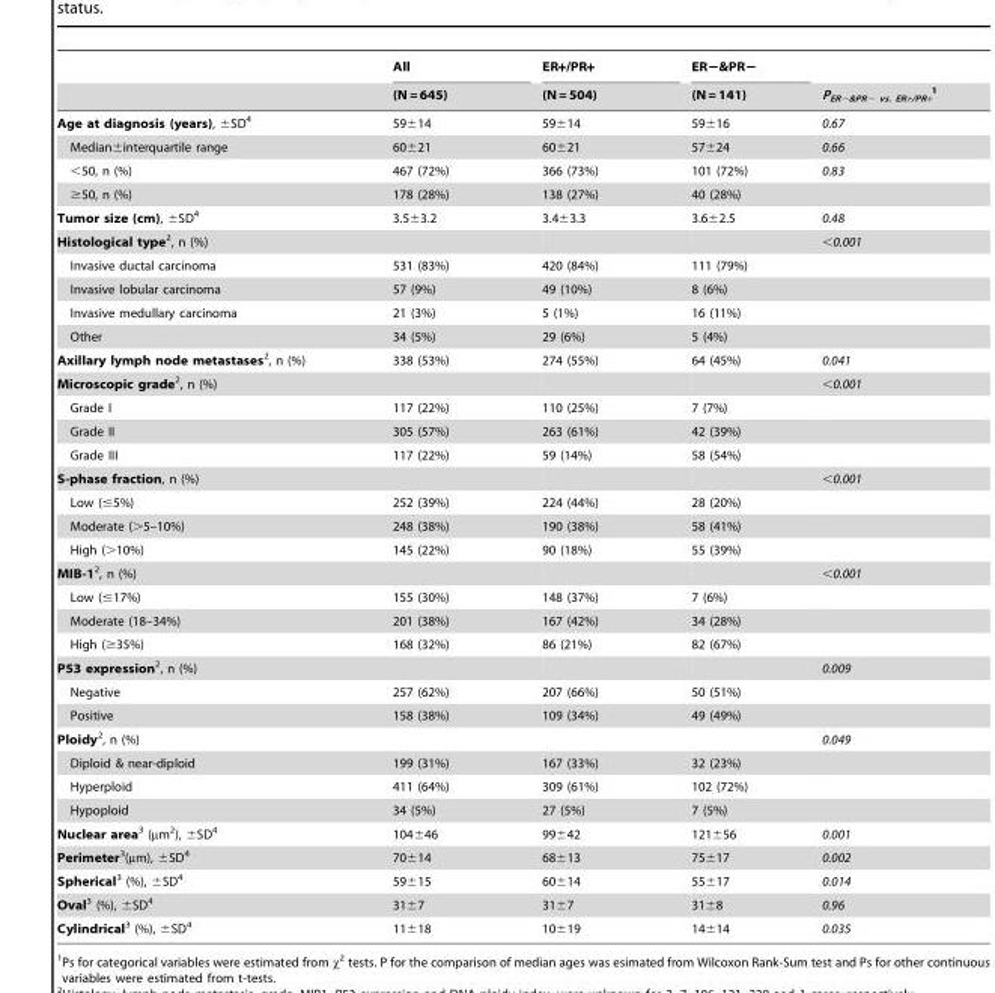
<table><thead><tr><td rowspan="2"></td><td rowspan="2">All (N = 645)</td><td rowspan="2">ER+/PR+ (N = 504)</td><td rowspan="2">ER−&amp;PR− (N = 141)</td><td rowspan="2">P<sub>ER−&amp;PR− vs. ER+/PR+</sub> 1</td></tr><tr></tr></thead><tbody><tr><td>Age at diagnosis (years), ±SD<sup>4</sup></td><td>59±14</td><td>59±14</td><td>59±16</td><td>0.67</td></tr><tr><td>Median±interquartile range</td><td>60±21</td><td>60±21</td><td>57±24</td><td>0.66</td></tr><tr><td>&lt;50, n (%)</td><td>467 (72%)</td><td>366 (73%)</td><td>101 (72%)</td><td>0.83</td></tr><tr><td>≥50, n (%)</td><td>178 (28%)</td><td>138 (27%)</td><td>40 (28%)</td><td></td></tr><tr><td>Tumor size (cm), ±SD<sup>4</sup></td><td>3.5±3.2</td><td>3.4±3.3</td><td>3.6±2.5</td><td>0.48</td></tr><tr><td>Histological type2, n (%)</td><td></td><td></td><td></td><td>&lt;0.001</td></tr><tr><td>Invasive ductal carcinoma</td><td>531 (83%)</td><td>420 (84%)</td><td>111 (79%)</td><td></td></tr><tr><td>Invasive lobular carcinoma</td><td>57 (9%)</td><td>49 (10%)</td><td>8 (6%)</td><td></td></tr><tr><td>Invasive medullary carcinoma</td><td>21 (3%)</td><td>5 (1%)</td><td>16 (11%)</td><td></td></tr><tr><td>Other</td><td>34 (5%)</td><td>29 (6%)</td><td>5 (4%)</td><td></td></tr><tr><td>Axillary lymph node metastases2, n (%)</td><td>338 (53%)</td><td>274 (55%)</td><td>64 (45%)</td><td>0.041</td></tr><tr><td>Microscopic grade2, n (%)</td><td></td><td></td><td></td><td>&lt;0.001</td></tr><tr><td>Grade I</td><td>117 (22%)</td><td>110 (25%)</td><td>7 (7%)</td><td></td></tr><tr><td>Grade II</td><td>305 (57%)</td><td>263 (61%)</td><td>42 (39%)</td><td></td></tr><tr><td>Grade III</td><td>117 (22%)</td><td>59 (14%)</td><td>58 (54%)</td><td></td></tr><tr><td>S-phase fraction, n (%)</td><td></td><td></td><td></td><td>&lt;0.001</td></tr><tr><td>Low (≤5%)</td><td>252 (39%)</td><td>224 (44%)</td><td>28 (20%)</td><td></td></tr><tr><td>Moderate (&gt;5–10%)</td><td>248 (38%)</td><td>190 (38%)</td><td>58 (41%)</td><td></td></tr><tr><td>High (&gt;10%)</td><td>145 (22%)</td><td>90 (18%)</td><td>55 (39%)</td><td></td></tr><tr><td>MIB-12, n (%)</td><td></td><td></td><td></td><td>&lt;0.001</td></tr><tr><td>Low (≤17%)</td><td>155 (30%)</td><td>148 (37%)</td><td>7 (6%)</td><td></td></tr><tr><td>Moderate (18–34%)</td><td>201 (38%)</td><td>167 (42%)</td><td>34 (28%)</td><td></td></tr><tr><td>High (≥35%)</td><td>168 (32%)</td><td>86 (21%)</td><td>82 (67%)</td><td></td></tr><tr><td>P53 expression2, n (%)</td><td></td><td></td><td></td><td>0.009</td></tr><tr><td>Negative</td><td>257 (62%)</td><td>207 (66%)</td><td>50 (51%)</td><td></td></tr><tr><td>Positive</td><td>158 (38%)</td><td>109 (34%)</td><td>49 (49%)</td><td></td></tr><tr><td>Ploidy2, n (%)</td><td></td><td></td><td></td><td>0.049</td></tr><tr><td>Diploid &amp; near-diploid</td><td>199 (31%)</td><td>167 (33%)</td><td>32 (23%)</td><td></td></tr><tr><td>Hyperploid</td><td>411 (64%)</td><td>309 (61%)</td><td>102 (72%)</td><td></td></tr><tr><td>Hypoploid</td><td>34 (5%)</td><td>27 (5%)</td><td>7 (5%)</td><td></td></tr><tr><td>Nuclear area3 (µm<sup>2</sup>), ±SD<sup>4</sup></td><td>104±46</td><td>99±42</td><td>121±56</td><td>0.001</td></tr><tr><td>Perimeter3(µm), ±SD<sup>4</sup></td><td>70±14</td><td>68±13</td><td>75±17</td><td>0.002</td></tr><tr><td>Spherical3 (%), ±SD<sup>4</sup></td><td>59±15</td><td>60±14</td><td>55±17</td><td>0.014</td></tr><tr><td>Oval3 (%), ±SD<sup>4</sup></td><td>31±7</td><td>31±7</td><td>31±8</td><td>0.96</td></tr><tr><td>Cylindrical3 (%), ±SD<sup>4</sup></td><td>11±18</td><td>10±19</td><td>14±14</td><td>0.035</td></tr></tbody></table>